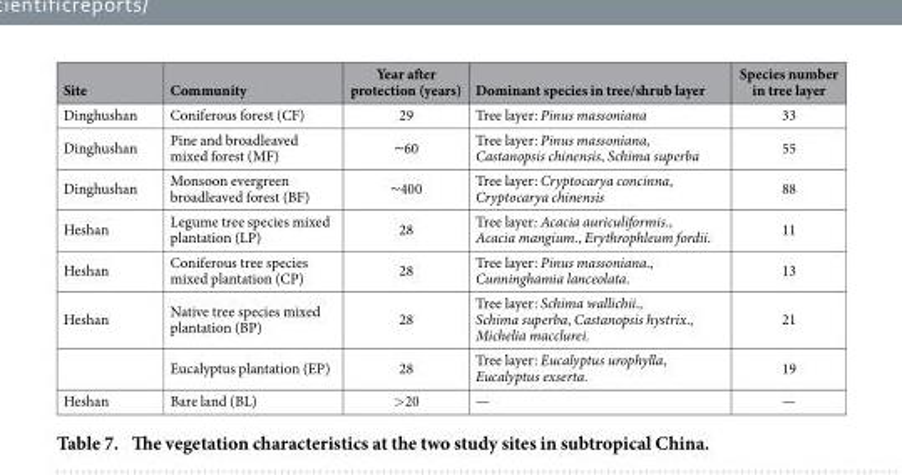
<table><thead><tr><td>Site</td><td>Community</td><td>Year after protection (years)</td><td>Dominant species in tree/shrub layer</td><td>Species number in tree layer</td></tr></thead><tbody><tr><td>Dinghushan</td><td>Coniferous forest (CF)</td><td>29</td><td>Tree layer: Pinus massoniana</td><td>33</td></tr><tr><td>Dinghushan</td><td>Pine and broadleaved mixed forest (MF)</td><td>~ 60</td><td>Tree layer: Pinus massoniana, Castanopsis chinensis, Schima superba</td><td>55</td></tr><tr><td>Dinghushan</td><td>Monsoon evergreen broadleaved forest (BF)</td><td>~ 400</td><td>Tree layer: Cryptocarya concinna, Cryptocarya chinensis</td><td>88</td></tr><tr><td>Heshan</td><td>Legume tree species mixed plantation (LP)</td><td>28</td><td>Tree layer: Acacia auriculiformis., Acacia mangium., Erythrophleum fordii.</td><td>11</td></tr><tr><td>Heshan</td><td>Coniferous tree species mixed plantation (CP)</td><td>28</td><td>Tree layer: Pinus massoniana., Cunninghamia lanceolata.</td><td>13</td></tr><tr><td rowspan="2">Heshan</td><td>Native tree species mixed plantation (BP)</td><td>28</td><td>Tree layer: Schima wallichii., Schima superba, Castanopsis hystrix., Michelia macclurei.</td><td>21</td></tr><tr><td>Eucalyptus plantation (EP)</td><td>28</td><td>Tree layer: Eucalyptus urophylla, Eucalyptus exserta.</td><td>19</td></tr><tr><td>Heshan</td><td>Bare land (BL)</td><td>&gt; 20</td><td>—</td><td>—</td></tr></tbody></table>